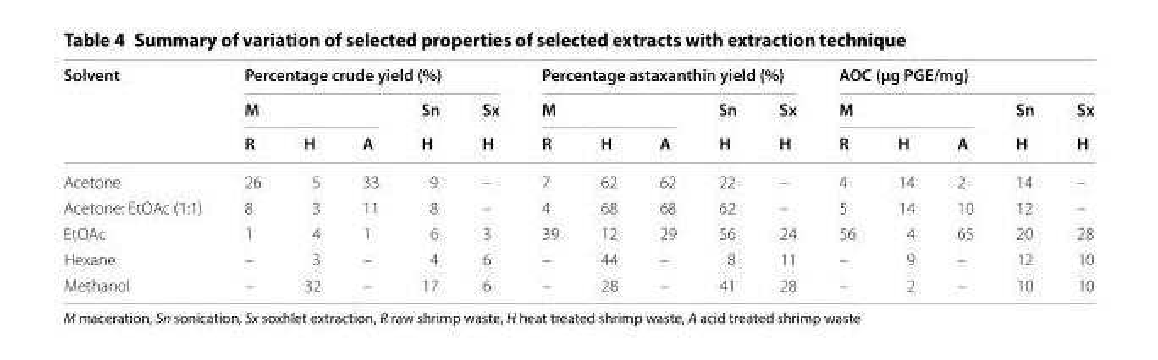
<table><thead><tr><td rowspan="3">Solvent</td><td colspan="5">Percentage crude yield (%)</td><td colspan="5">Percentage astaxanthin yield (%)</td><td colspan="5">AOC (µg PGE/mg)</td></tr><tr><td colspan="3">M</td><td rowspan="2">Sn H</td><td rowspan="2">Sx H</td><td colspan="3">M</td><td rowspan="2">Sn H</td><td rowspan="2">Sx H</td><td colspan="3">M</td><td rowspan="2">Sn H</td><td rowspan="2">Sx H</td></tr><tr><td>R</td><td>H</td><td>A</td><td>R</td><td>H</td><td>A</td><td>R</td><td>H</td><td>A</td></tr></thead><tbody><tr><td>Acetone</td><td>26</td><td>5</td><td>33</td><td>9</td><td>–</td><td>7</td><td>62</td><td>62</td><td>22</td><td>–</td><td>4</td><td>14</td><td>2</td><td>14</td><td>–</td></tr><tr><td>Acetone: EtOAc (1:1)</td><td>8</td><td>3</td><td>11</td><td>8</td><td>–</td><td>4</td><td>68</td><td>68</td><td>62</td><td>–</td><td>5</td><td>14</td><td>10</td><td>12</td><td>–</td></tr><tr><td>EtOAc</td><td>1</td><td>4</td><td>1</td><td>6</td><td>3</td><td>39</td><td>12</td><td>29</td><td>56</td><td>24</td><td>56</td><td>4</td><td>65</td><td>20</td><td>28</td></tr><tr><td>Hexane</td><td>–</td><td>3</td><td>–</td><td>4</td><td>6</td><td>–</td><td>44</td><td>–</td><td>8</td><td>11</td><td>–</td><td>9</td><td>–</td><td>12</td><td>10</td></tr><tr><td>Methanol</td><td>–</td><td>32</td><td>–</td><td>17</td><td>6</td><td>–</td><td>28</td><td>–</td><td>41</td><td>28</td><td>–</td><td>2</td><td>–</td><td>10</td><td>10</td></tr></tbody></table>